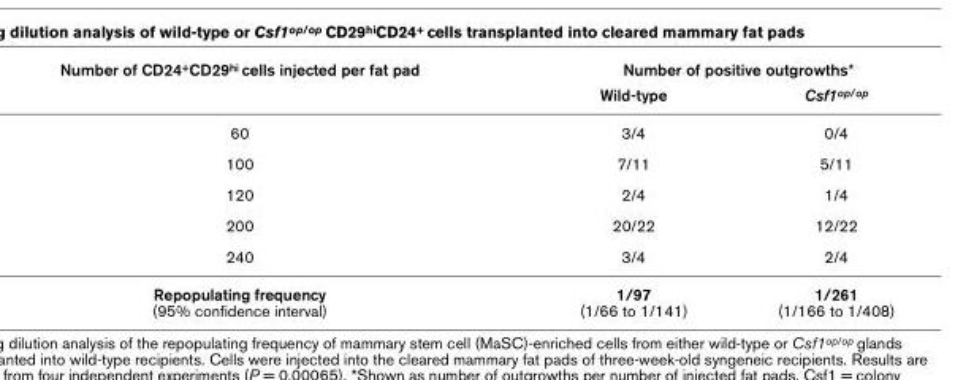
<table><thead><tr><td rowspan="2">Number of CD24<sup>+</sup>CD29<sup>hi</sup> cells injected per fat pad</td><td colspan="2">Number of positive outgrowths*</td></tr><tr><td>Wild-type</td><td>Csf1<sup>op/op</sup></td></tr></thead><tbody><tr><td>60</td><td>3/4</td><td>0/4</td></tr><tr><td>100</td><td>7/11</td><td>5/11</td></tr><tr><td>120</td><td>2/4</td><td>1/4</td></tr><tr><td>200</td><td>20/22</td><td>12/22</td></tr><tr><td>240</td><td>3/4</td><td>2/4</td></tr><tr><td>Repopulating frequency (95% confidence interval)</td><td>1/97 (1/66 to 1/141)</td><td>1/261 (1/166 to 1/408)</td></tr></tbody></table>